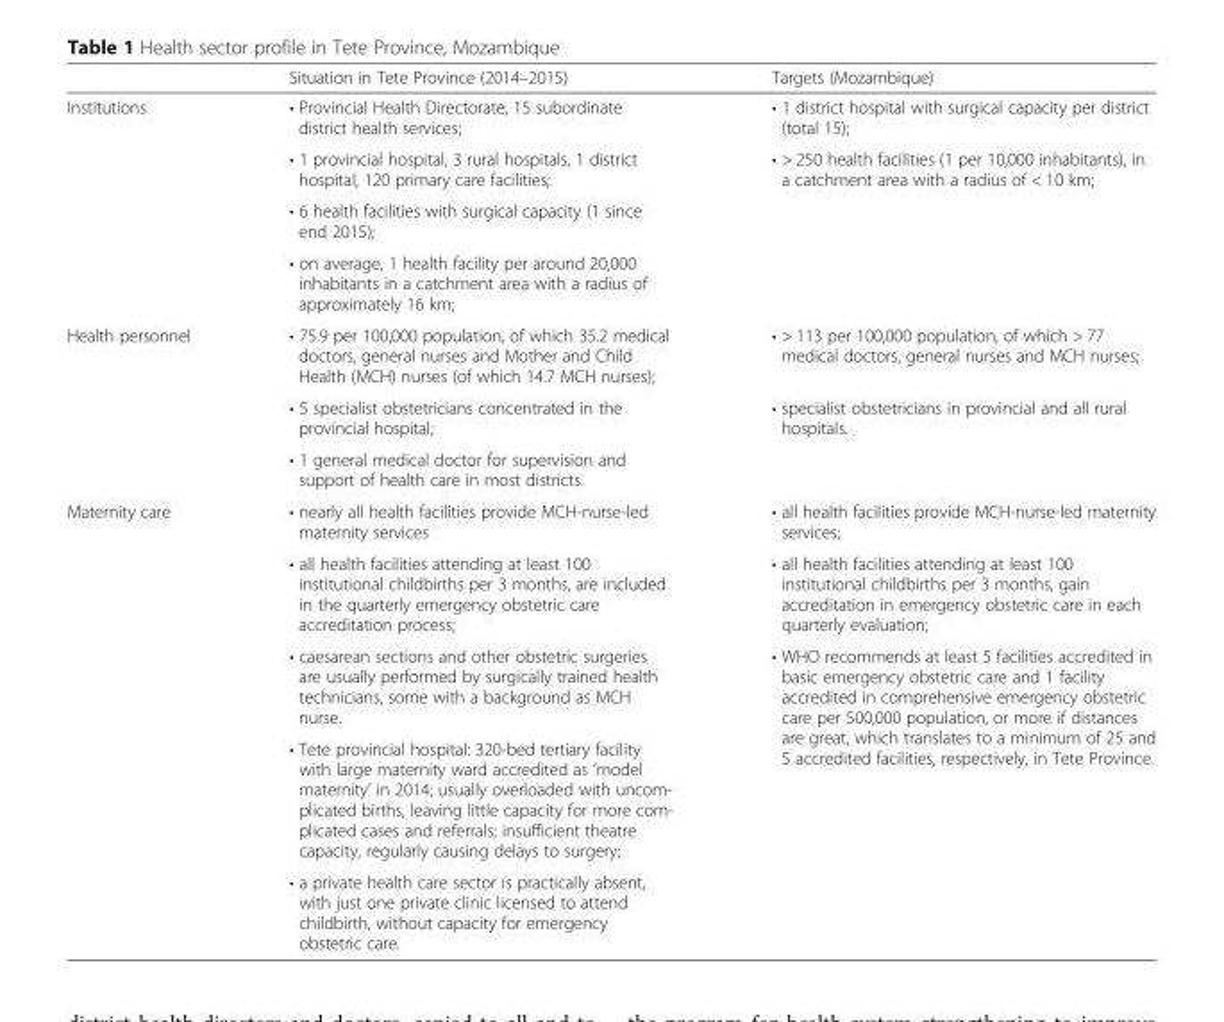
<table><thead><tr><td></td><td>Situation in Tete Province (2014–2015)</td><td>Targets (Mozambique)</td></tr></thead><tbody><tr><td rowspan="4">Institutions</td><td>• Provincial Health Directorate, 15 subordinate district health services;</td><td>• 1 district hospital with surgical capacity per district (total 15);</td></tr><tr><td>• 1 provincial hospital, 3 rural hospitals, 1 district hospital, 120 primary care facilities;</td><td rowspan="3">• &gt; 250 health facilities (1 per 10,000 inhabitants), in a catchment area with a radius of &lt; 10 km;</td></tr><tr><td>• 6 health facilities with surgical capacity (1 since end 2015);</td></tr><tr><td>• on average, 1 health facility per around 20,000 inhabitants in a catchment area with a radius of approximately 16 km;</td></tr><tr><td rowspan="3">Health personnel</td><td>• 75.9 per 100,000 population, of which 35.2 medical doctors, general nurses and Mother and Child Health (MCH) nurses (of which 14.7 MCH nurses);</td><td>• &gt; 113 per 100,000 population, of which &gt; 77 medical doctors, general nurses and MCH nurses;</td></tr><tr><td>• 5 specialist obstetricians concentrated in the provincial hospital;</td><td rowspan="2">• specialist obstetricians in provincial and all rural hospitals.</td></tr><tr><td>• 1 general medical doctor for supervision and support of health care in most districts.</td></tr><tr><td rowspan="5">Maternity care</td><td>• nearly all health facilities provide MCH-nurse-led maternity services</td><td>• all health facilities provide MCH-nurse-led maternity services;</td></tr><tr><td>• all health facilities attending at least 100 institutional childbirths per 3 months, are included in the quarterly emergency obstetric care accreditation process;</td><td>• all health facilities attending at least 100 institutional childbirths per 3 months, gain accreditation in emergency obstetric care in each quarterly evaluation;</td></tr><tr><td>• caesarean sections and other obstetric surgeries are usually performed by surgically trained health technicians, some with a background as MCH nurse.</td><td rowspan="3">• WHO recommends at least 5 facilities accredited in basic emergency obstetric care and 1 facility accredited in comprehensive emergency obstetric care per 500,000 population, or more if distances are great, which translates to a minimum of 25 and 5 accredited facilities, respectively, in Tete Province.</td></tr><tr><td>• Tete provincial hospital: 320-bed tertiary facility with large maternity ward accredited as ‘model maternity’ in 2014; usually overloaded with uncom- plicated births, leaving little capacity for more com- plicated cases and referrals; insufficient theatre capacity, regularly causing delays to surgery;</td></tr><tr><td>• a private health care sector is practically absent, with just one private clinic licensed to attend childbirth, without capacity for emergency obstetric care.</td></tr></tbody></table>